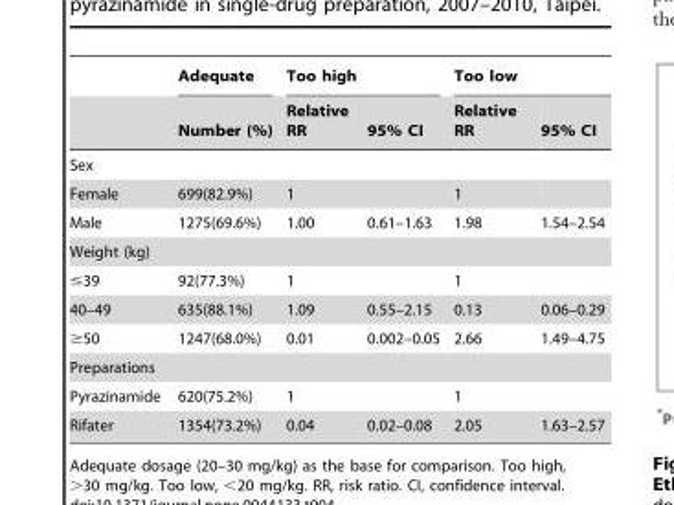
<table><thead><tr><td rowspan="2"></td><td rowspan="2">Adequate Number (%)</td><td colspan="2">Too high</td><td colspan="2">Too low</td></tr><tr><td>Relative RR</td><td>95% CI</td><td>Relative RR</td><td>95% CI</td></tr></thead><tbody><tr><td colspan="6">Sex</td></tr><tr><td>Female</td><td>699(82.9%)</td><td>1</td><td></td><td>1</td><td></td></tr><tr><td>Male</td><td>1275(69.6%)</td><td>1.00</td><td>0.61–1.63</td><td>1.98</td><td>1.54–2.54</td></tr><tr><td colspan="6">Weight (kg)</td></tr><tr><td>≤39</td><td>92(77.3%)</td><td>1</td><td></td><td>1</td><td></td></tr><tr><td>40–49</td><td>635(88.1%)</td><td>1.09</td><td>0.55–2.15</td><td>0.13</td><td>0.06–0.29</td></tr><tr><td>≥50</td><td>1247(68.0%)</td><td>0.01</td><td>0.002–0.05</td><td>2.66</td><td>1.49–4.75</td></tr><tr><td colspan="6">Preparations</td></tr><tr><td>Pyrazinamide</td><td>620(75.2%)</td><td>1</td><td></td><td>1</td><td></td></tr><tr><td>Rifater</td><td>1354(73.2%)</td><td>0.04</td><td>0.02–0.08</td><td>2.05</td><td>1.63–2.57</td></tr></tbody></table>